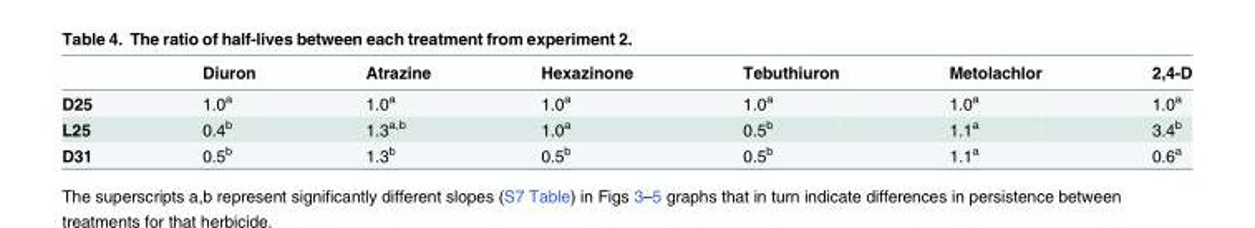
<table><thead><tr><td></td><td>Diuron</td><td>Atrazine</td><td>Hexazinone</td><td>Tebuthiuron</td><td>Metolachlor</td><td>2,4-D</td></tr></thead><tbody><tr><td>D25</td><td>1.0<sup>a</sup></td><td>1.0<sup>a</sup></td><td>1.0<sup>a</sup></td><td>1.0<sup>a</sup></td><td>1.0<sup>a</sup></td><td>1.0<sup>a</sup></td></tr><tr><td>L25</td><td>0.4<sup>b</sup></td><td>1.3<sup>a,b</sup></td><td>1.0<sup>a</sup></td><td>0.5<sup>b</sup></td><td>1.1<sup>a</sup></td><td>3.4<sup>b</sup></td></tr><tr><td>D31</td><td>0.5<sup>b</sup></td><td>1.3<sup>b</sup></td><td>0.5<sup>b</sup></td><td>0.5<sup>b</sup></td><td>1.1<sup>a</sup></td><td>0.6<sup>a</sup></td></tr></tbody></table>